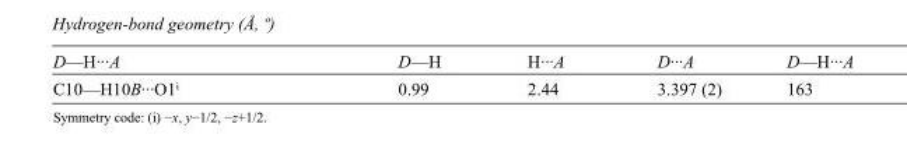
<table><tbody><tr><td>D—H···A</td><td>D—H</td><td>H···A</td><td>D···A</td><td>D—H···A</td></tr><tr><td>C10—H10B···O1<sup>i</sup></td><td>0.99</td><td>2.44</td><td>3.397 (2)</td><td>163</td></tr></tbody></table>